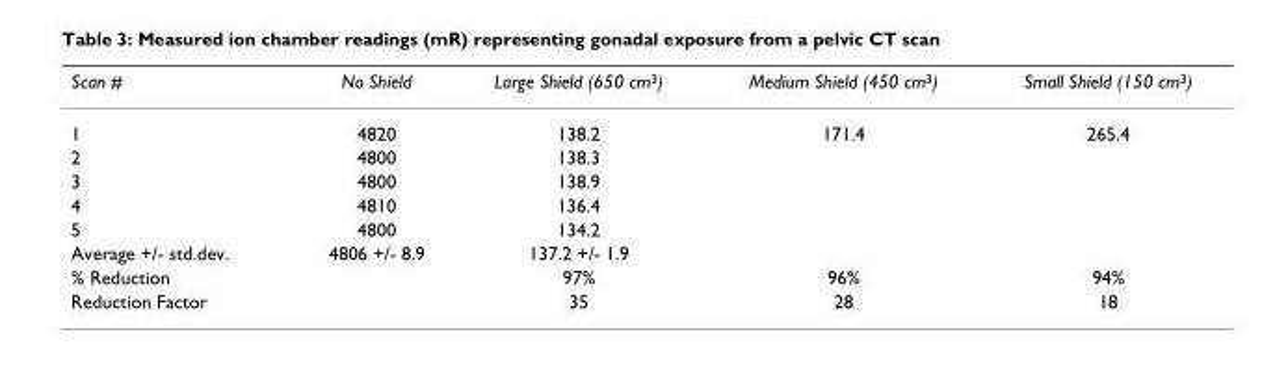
<table><thead><tr><td>Scan #</td><td>No Shield</td><td>Large Shield (650 cm3)</td><td>Medium Shield (450 cm3)</td><td>Small Shield (150 cm3)</td></tr></thead><tbody><tr><td>1</td><td>4820</td><td>138.2</td><td>171.4</td><td>265.4</td></tr><tr><td>2</td><td>4800</td><td>138.3</td><td></td><td></td></tr><tr><td>3</td><td>4800</td><td>138.9</td><td></td><td></td></tr><tr><td>4</td><td>4810</td><td>136.4</td><td></td><td></td></tr><tr><td>5</td><td>4800</td><td>134.2</td><td></td><td></td></tr><tr><td>Average +/- std.dev.</td><td>4806 +/- 8.9</td><td>137.2 +/- 1.9</td><td></td><td></td></tr><tr><td>% Reduction</td><td></td><td>97%</td><td>96%</td><td>94%</td></tr><tr><td>Reduction Factor</td><td></td><td>35</td><td>28</td><td>18</td></tr></tbody></table>